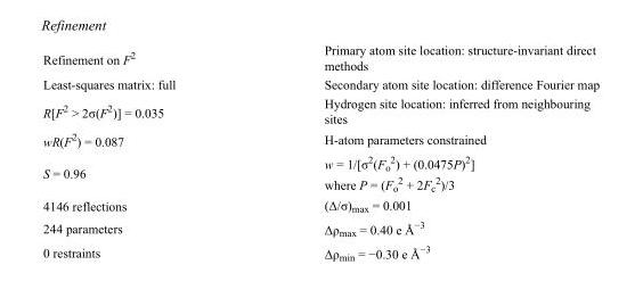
<table><tbody><tr><td>Refinement on F<sup>2</sup></td><td>Primary atom site location: structure-invariant direct methods</td></tr><tr><td>Least-squares matrix: full</td><td>Secondary atom site location: difference Fourier map</td></tr><tr><td>R[F<sup>2</sup> &gt; 2σ(F<sup>2</sup>)] = 0.035</td><td>Hydrogen site location: inferred from neighbouring sites</td></tr><tr><td>wR(F<sup>2</sup>) = 0.087</td><td>H-atom parameters constrained</td></tr><tr><td>S = 0.96</td><td>w = 1/[σ<sup>2</sup>(F<sub>o</sub> <sup>2</sup>) + (0.0475P)<sup>2</sup>] where P = (F<sub>o</sub> <sup>2</sup> + 2F<sub>c</sub> <sup>2</sup>)/3</td></tr><tr><td>4146 reflections</td><td>(Δ/σ)<sub>max</sub> = 0.001</td></tr><tr><td>244 parameters</td><td>Δρ<sub>max</sub> = 0.40 e Å<sup>−3</sup></td></tr><tr><td>0 restraints</td><td>Δρ<sub>min</sub> = −0.30 e Å<sup>−3</sup></td></tr></tbody></table>